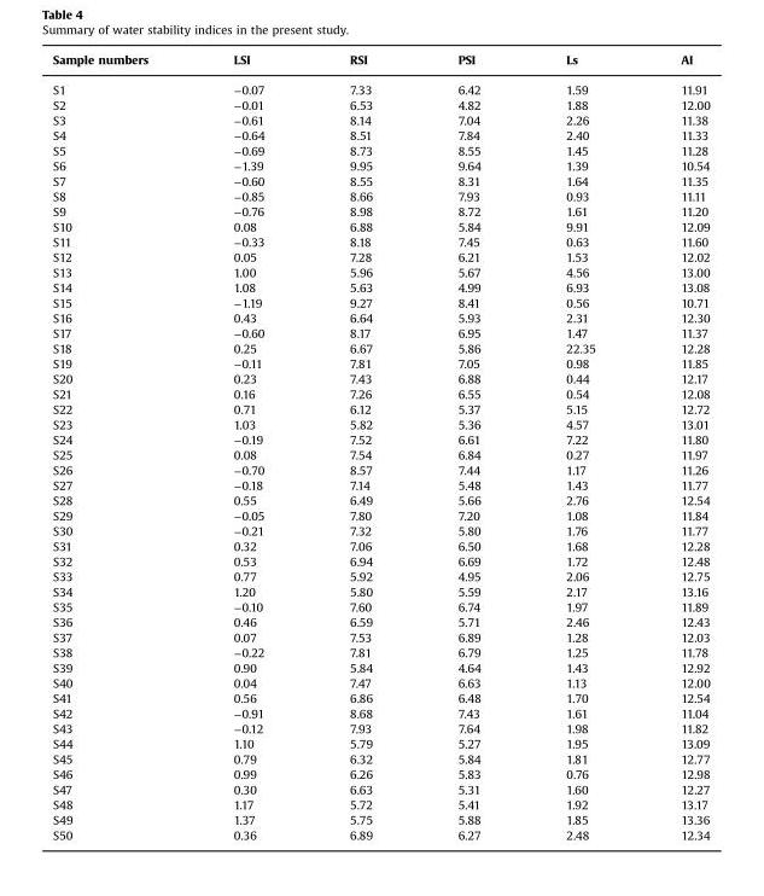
<table><thead><tr><td>Sample numbers</td><td>LSI</td><td>RSI</td><td>PSI</td><td>Ls</td><td>AI</td></tr></thead><tbody><tr><td>S1</td><td>−0.07</td><td>7.33</td><td>6.42</td><td>1.59</td><td>11.91</td></tr><tr><td>S2</td><td>−0.01</td><td>6.53</td><td>4.82</td><td>1.88</td><td>12.00</td></tr><tr><td>S3</td><td>−0.61</td><td>8.14</td><td>7.04</td><td>2.26</td><td>11.38</td></tr><tr><td>S4</td><td>−0.64</td><td>8.51</td><td>7.84</td><td>2.40</td><td>11.33</td></tr><tr><td>S5</td><td>−0.69</td><td>8.73</td><td>8.55</td><td>1.45</td><td>11.28</td></tr><tr><td>S6</td><td>−1.39</td><td>9.95</td><td>9.64</td><td>1.39</td><td>10.54</td></tr><tr><td>S7</td><td>−0.60</td><td>8.55</td><td>8.31</td><td>1.64</td><td>11.35</td></tr><tr><td>S8</td><td>−0.85</td><td>8.66</td><td>7.93</td><td>0.93</td><td>11.11</td></tr><tr><td>S9</td><td>−0.76</td><td>8.98</td><td>8.72</td><td>1.61</td><td>11.20</td></tr><tr><td>S10</td><td>0.08</td><td>6.88</td><td>5.84</td><td>9.91</td><td>12.09</td></tr><tr><td>S11</td><td>−0.33</td><td>8.18</td><td>7.45</td><td>0.63</td><td>11.60</td></tr><tr><td>S12</td><td>0.05</td><td>7.28</td><td>6.21</td><td>1.53</td><td>12.02</td></tr><tr><td>S13</td><td>1.00</td><td>5.96</td><td>5.67</td><td>4.56</td><td>13.00</td></tr><tr><td>S14</td><td>1.08</td><td>5.63</td><td>4.99</td><td>6.93</td><td>13.08</td></tr><tr><td>S15</td><td>−1.19</td><td>9.27</td><td>8.41</td><td>0.56</td><td>10.71</td></tr><tr><td>S16</td><td>0.43</td><td>6.64</td><td>5.93</td><td>2.31</td><td>12.30</td></tr><tr><td>S17</td><td>−0.60</td><td>8.17</td><td>6.95</td><td>1.47</td><td>11.37</td></tr><tr><td>S18</td><td>0.25</td><td>6.67</td><td>5.86</td><td>22.35</td><td>12.28</td></tr><tr><td>S19</td><td>−0.11</td><td>7.81</td><td>7.05</td><td>0.98</td><td>11.85</td></tr><tr><td>S20</td><td>0.23</td><td>7.43</td><td>6.88</td><td>0.44</td><td>12.17</td></tr><tr><td>S21</td><td>0.16</td><td>7.26</td><td>6.55</td><td>0.54</td><td>12.08</td></tr><tr><td>S22</td><td>0.71</td><td>6.12</td><td>5.37</td><td>5.15</td><td>12.72</td></tr><tr><td>S23</td><td>1.03</td><td>5.82</td><td>5.36</td><td>4.57</td><td>13.01</td></tr><tr><td>S24</td><td>−0.19</td><td>7.52</td><td>6.61</td><td>7.22</td><td>11.80</td></tr><tr><td>S25</td><td>0.08</td><td>7.54</td><td>6.84</td><td>0.27</td><td>11.97</td></tr><tr><td>S26</td><td>−0.70</td><td>8.57</td><td>7.44</td><td>1.17</td><td>11.26</td></tr><tr><td>S27</td><td>−0.18</td><td>7.14</td><td>5.48</td><td>1.43</td><td>11.77</td></tr><tr><td>S28</td><td>0.55</td><td>6.49</td><td>5.66</td><td>2.76</td><td>12.54</td></tr><tr><td>S29</td><td>−0.05</td><td>7.80</td><td>7.20</td><td>1.08</td><td>11.84</td></tr><tr><td>S30</td><td>−0.21</td><td>7.32</td><td>5.80</td><td>1.76</td><td>11.77</td></tr><tr><td>S31</td><td>0.32</td><td>7.06</td><td>6.50</td><td>1.68</td><td>12.28</td></tr><tr><td>S32</td><td>0.53</td><td>6.94</td><td>6.69</td><td>1.72</td><td>12.48</td></tr><tr><td>S33</td><td>0.77</td><td>5.92</td><td>4.95</td><td>2.06</td><td>12.75</td></tr><tr><td>S34</td><td>1.20</td><td>5.80</td><td>5.59</td><td>2.17</td><td>13.16</td></tr><tr><td>S35</td><td>−0.10</td><td>7.60</td><td>6.74</td><td>1.97</td><td>11.89</td></tr><tr><td>S36</td><td>0.46</td><td>6.59</td><td>5.71</td><td>2.46</td><td>12.43</td></tr><tr><td>S37</td><td>0.07</td><td>7.53</td><td>6.89</td><td>1.28</td><td>12.03</td></tr><tr><td>S38</td><td>−0.22</td><td>7.81</td><td>6.79</td><td>1.25</td><td>11.78</td></tr><tr><td>S39</td><td>0.90</td><td>5.84</td><td>4.64</td><td>1.43</td><td>12.92</td></tr><tr><td>S40</td><td>0.04</td><td>7.47</td><td>6.63</td><td>1.13</td><td>12.00</td></tr><tr><td>S41</td><td>0.56</td><td>6.86</td><td>6.48</td><td>1.70</td><td>12.54</td></tr><tr><td>S42</td><td>−0.91</td><td>8.68</td><td>7.43</td><td>1.61</td><td>11.04</td></tr><tr><td>S43</td><td>−0.12</td><td>7.93</td><td>7.64</td><td>1.98</td><td>11.82</td></tr><tr><td>S44</td><td>1.10</td><td>5.79</td><td>5.27</td><td>1.95</td><td>13.09</td></tr><tr><td>S45</td><td>0.79</td><td>6.32</td><td>5.84</td><td>1.81</td><td>12.77</td></tr><tr><td>S46</td><td>0.99</td><td>6.26</td><td>5.83</td><td>0.76</td><td>12.98</td></tr><tr><td>S47</td><td>0.30</td><td>6.63</td><td>5.31</td><td>1.60</td><td>12.27</td></tr><tr><td>S48</td><td>1.17</td><td>5.72</td><td>5.41</td><td>1.92</td><td>13.17</td></tr><tr><td>S49</td><td>1.37</td><td>5.75</td><td>5.88</td><td>1.85</td><td>13.36</td></tr><tr><td>S50</td><td>0.36</td><td>6.89</td><td>6.27</td><td>2.48</td><td>12.34</td></tr></tbody></table>